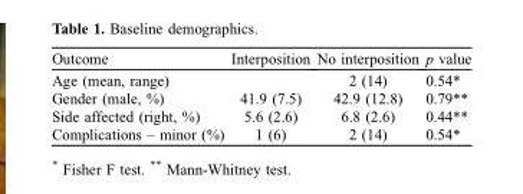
<table><thead><tr><td>Outcome</td><td>Interposition</td><td>No interposition</td><td>p value</td></tr></thead><tbody><tr><td>Age (mean, range)</td><td></td><td>2 (14)</td><td>0.54*</td></tr><tr><td>Gender (male, %)</td><td>41.9 (7.5)</td><td>42.9 (12.8)</td><td>0.79**</td></tr><tr><td>Side affected (right, %)</td><td>5.6 (2.6)</td><td>6.8 (2.6)</td><td>0.44**</td></tr><tr><td>Complications – minor (%)</td><td>1 (6)</td><td>2 (14)</td><td>0.54*</td></tr></tbody></table>